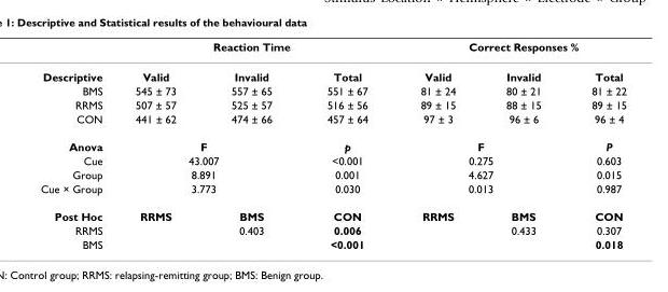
<table><thead><tr><td rowspan="2">Descriptive</td><td colspan="3">Reaction Time</td><td colspan="3">Correct Responses %</td></tr><tr><td>Valid</td><td>Invalid</td><td>Total</td><td>Valid</td><td>Invalid</td><td>Total</td></tr></thead><tbody><tr><td>BMS</td><td>545 ± 73</td><td>557 ± 65</td><td>551 ± 67</td><td>81 ± 24</td><td>80 ± 21</td><td>81 ± 22</td></tr><tr><td>RRMS</td><td>507 ± 57</td><td>525 ± 57</td><td>516 ± 56</td><td>89 ± 15</td><td>88 ± 15</td><td>89 ± 15</td></tr><tr><td>CON</td><td>441 ± 62</td><td>474 ± 66</td><td>457 ± 64</td><td>97 ± 3</td><td>96 ± 6</td><td>96 ± 4</td></tr><tr><td>Anova</td><td colspan="2">F</td><td>p</td><td colspan="2">F</td><td>P</td></tr><tr><td>Cue</td><td colspan="2">43.007</td><td>&lt;0.001</td><td colspan="2">0.275</td><td>0.603</td></tr><tr><td>Group</td><td colspan="2">8.891</td><td>0.001</td><td colspan="2">4.627</td><td>0.015</td></tr><tr><td>Cue × Group</td><td colspan="2">3.773</td><td>0.030</td><td colspan="2">0.013</td><td>0.987</td></tr><tr><td>Post Hoc</td><td>RRMS</td><td>BMS</td><td>CON</td><td>RRMS</td><td>BMS</td><td>CON</td></tr><tr><td>RRMS</td><td></td><td>0.403</td><td>0.006</td><td></td><td>0.433</td><td>0.307</td></tr><tr><td>BMS</td><td></td><td></td><td>&lt;0.001</td><td></td><td></td><td>0.018</td></tr></tbody></table>